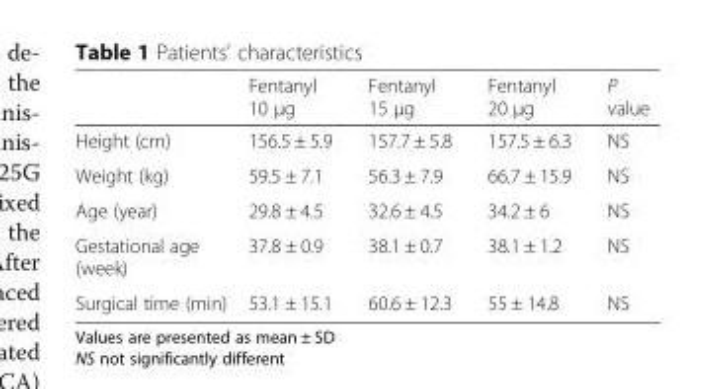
<table><thead><tr><td></td><td>Fentanyl 10 μg</td><td>Fentanyl 15 μg</td><td>Fentanyl 20 μg</td><td>P value</td></tr></thead><tbody><tr><td>Height (cm)</td><td>156.5 ± 5.9</td><td>157.7 ± 5.8</td><td>157.5 ± 6.3</td><td>NS</td></tr><tr><td>Weight (kg)</td><td>59.5 ± 7.1</td><td>56.3 ± 7.9</td><td>66.7 ± 15.9</td><td>NS</td></tr><tr><td>Age (year)</td><td>29.8 ± 4.5</td><td>32.6 ± 4.5</td><td>34.2 ± 6</td><td>NS</td></tr><tr><td>Gestational age (week)</td><td>37.8 ± 0.9</td><td>38.1 ± 0.7</td><td>38.1 ± 1.2</td><td>NS</td></tr><tr><td>Surgical time (min)</td><td>53.1 ± 15.1</td><td>60.6 ± 12.3</td><td>55 ± 14.8</td><td>NS</td></tr></tbody></table>